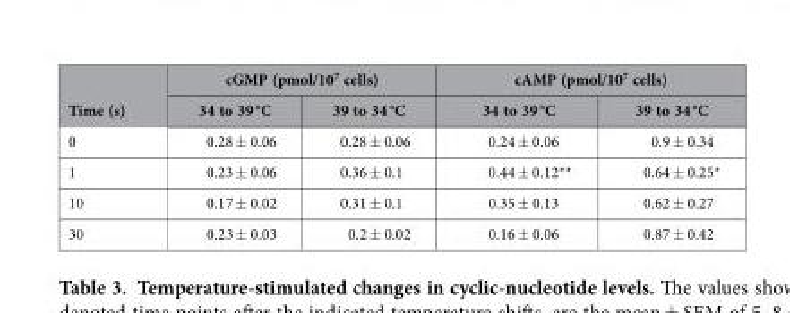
<table><thead><tr><td rowspan="2">Time (s)</td><td colspan="2">cGMP (pmol/10<sup>7</sup> cells)</td><td colspan="2">cAMP (pmol/10<sup>7</sup> cells)</td></tr><tr><td>34 to 39 °C</td><td>39 to 34 °C</td><td>34 to 39 °C</td><td>39 to 34 °C</td></tr></thead><tbody><tr><td>0</td><td>0.28 ± 0.06</td><td>0.28 ± 0.06</td><td>0.24 ± 0.06</td><td>0.9 ± 0.34</td></tr><tr><td>1</td><td>0.23 ± 0.06</td><td>0.36 ± 0.1</td><td>0.44 ± 0.12**</td><td>0.64 ± 0.25*</td></tr><tr><td>10</td><td>0.17 ± 0.02</td><td>0.31 ± 0.1</td><td>0.35 ± 0.13</td><td>0.62 ± 0.27</td></tr><tr><td>30</td><td>0.23 ± 0.03</td><td>0.2 ± 0.02</td><td>0.16 ± 0.06</td><td>0.87 ± 0.42</td></tr></tbody></table>